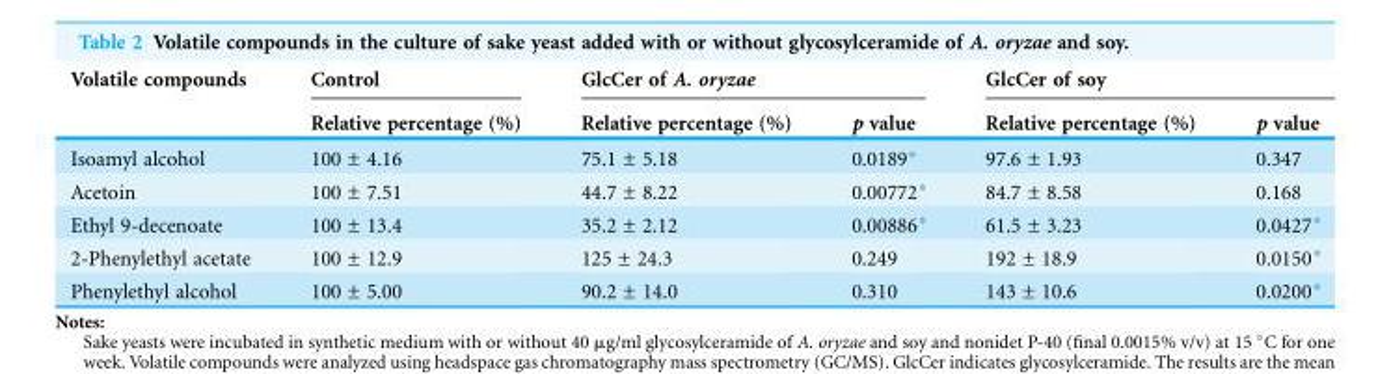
<table><thead><tr><td rowspan="2">Volatile compounds</td><td rowspan="2">Control Relative percentage (%)</td><td colspan="2">GlcCer of A. oryzae</td><td colspan="2">GlcCer of soy</td></tr><tr><td>Relative percentage (%)</td><td>p value</td><td>Relative percentage (%)</td><td>p value</td></tr></thead><tbody><tr><td>Isoamyl alcohol</td><td>100 ± 4.16</td><td>75.1 ± 5.18</td><td>0.0189*</td><td>97.6 ± 1.93</td><td>0.347</td></tr><tr><td>Acetoin</td><td>100 ± 7.51</td><td>44.7 ± 8.22</td><td>0.00772*</td><td>84.7 ± 8.58</td><td>0.168</td></tr><tr><td>Ethyl 9-decenoate</td><td>100 ± 13.4</td><td>35.2 ± 2.12</td><td>0.00886*</td><td>61.5 ± 3.23</td><td>0.0427*</td></tr><tr><td>2-Phenylethyl acetate</td><td>100 ± 12.9</td><td>125 ± 24.3</td><td>0.249</td><td>192 ± 18.9</td><td>0.0150*</td></tr><tr><td>Phenylethyl alcohol</td><td>100 ± 5.00</td><td>90.2 ± 14.0</td><td>0.310</td><td>143 ± 10.6</td><td>0.0200*</td></tr></tbody></table>